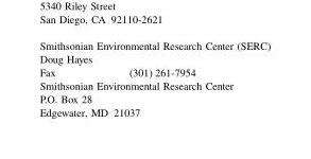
<table><tbody><tr><td colspan="2">Smithsonian Environmental Research Center (SERC)</td></tr><tr><td colspan="2">Doug Hayes</td></tr><tr><td>Fax</td><td>(301) 261-7954</td></tr><tr><td colspan="2">Smithsonian Environmental Research Center</td></tr><tr><td colspan="2">P.O. Box 28</td></tr><tr><td colspan="2">Edgewater, MD 21037</td></tr></tbody></table>